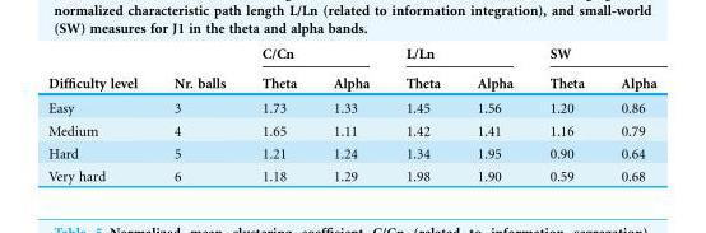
<table><thead><tr><td rowspan="2">Difficulty level</td><td rowspan="2">Nr. balls</td><td colspan="2">C/Cn</td><td colspan="2">L/Ln</td><td colspan="2">SW</td></tr><tr><td>Theta</td><td>Alpha</td><td>Theta</td><td>Alpha</td><td>Theta</td><td>Alpha</td></tr></thead><tbody><tr><td>Easy</td><td>3</td><td>1.73</td><td>1.33</td><td>1.45</td><td>1.56</td><td>1.20</td><td>0.86</td></tr><tr><td>Medium</td><td>4</td><td>1.65</td><td>1.11</td><td>1.42</td><td>1.41</td><td>1.16</td><td>0.79</td></tr><tr><td>Hard</td><td>5</td><td>1.21</td><td>1.24</td><td>1.34</td><td>1.95</td><td>0.90</td><td>0.64</td></tr><tr><td>Very hard</td><td>6</td><td>1.18</td><td>1.29</td><td>1.98</td><td>1.90</td><td>0.59</td><td>0.68</td></tr></tbody></table>